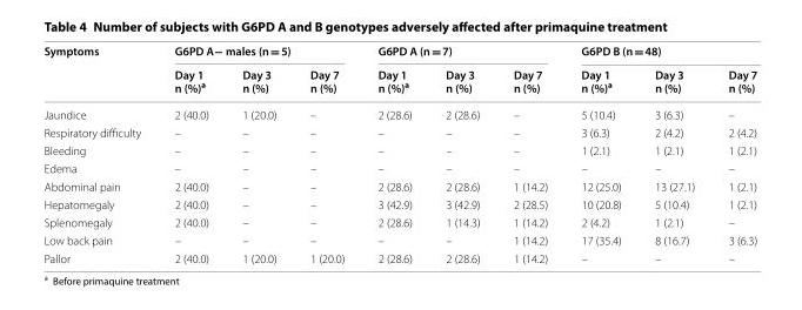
<table><thead><tr><td rowspan="2">Symptoms</td><td colspan="3">G6PD A− males (n = 5)</td><td colspan="3">G6PD A (n = 7)</td><td colspan="3">G6PD B (n = 48)</td></tr><tr><td>Day 1 n (%)<sup>a</sup></td><td>Day 3 n (%)</td><td>Day 7 n (%)</td><td>Day 1 n (%)<sup>a</sup></td><td>Day 3 n (%)</td><td>Day 7 n (%)</td><td>Day 1 n (%)<sup>a</sup></td><td>Day 3 n (%)</td><td>Day 7 n (%)</td></tr></thead><tbody><tr><td>Jaundice</td><td>2 (40.0)</td><td>1 (20.0)</td><td>–</td><td>2 (28.6)</td><td>2 (28.6)</td><td>–</td><td>5 (10.4)</td><td>3 (6.3)</td><td>–</td></tr><tr><td>Respiratory difficulty</td><td>–</td><td>–</td><td>–</td><td>–</td><td>–</td><td>–</td><td>3 (6.3)</td><td>2 (4.2)</td><td>2 (4.2)</td></tr><tr><td>Bleeding</td><td>–</td><td>–</td><td>–</td><td>–</td><td>–</td><td>–</td><td>1 (2.1)</td><td>1 (2.1)</td><td>1 (2.1)</td></tr><tr><td>Edema</td><td>–</td><td>–</td><td>–</td><td>–</td><td>–</td><td>–</td><td>–</td><td>–</td><td>–</td></tr><tr><td>Abdominal pain</td><td>2 (40.0)</td><td>–</td><td>–</td><td>2 (28.6)</td><td>2 (28.6)</td><td>1 (14.2)</td><td>12 (25.0)</td><td>13 (27.1)</td><td>1 (2.1)</td></tr><tr><td>Hepatomegaly</td><td>2 (40.0)</td><td>–</td><td>–</td><td>3 (42.9)</td><td>3 (42.9)</td><td>2 (28.5)</td><td>10 (20.8)</td><td>5 (10.4)</td><td>1 (2.1)</td></tr><tr><td>Splenomegaly</td><td>2 (40.0)</td><td>–</td><td>–</td><td>2 (28.6)</td><td>1 (14.3)</td><td>1 (14.2)</td><td>2 (4.2)</td><td>1 (2.1)</td><td>–</td></tr><tr><td>Low back pain</td><td>–</td><td>–</td><td>–</td><td>–</td><td>–</td><td>1 (14.2)</td><td>17 (35.4)</td><td>8 (16.7)</td><td>3 (6.3)</td></tr><tr><td>Pallor</td><td>2 (40.0)</td><td>1 (20.0)</td><td>1 (20.0)</td><td>2 (28.6)</td><td>2 (28.6)</td><td>1 (14.2)</td><td>–</td><td>–</td><td>–</td></tr></tbody></table>